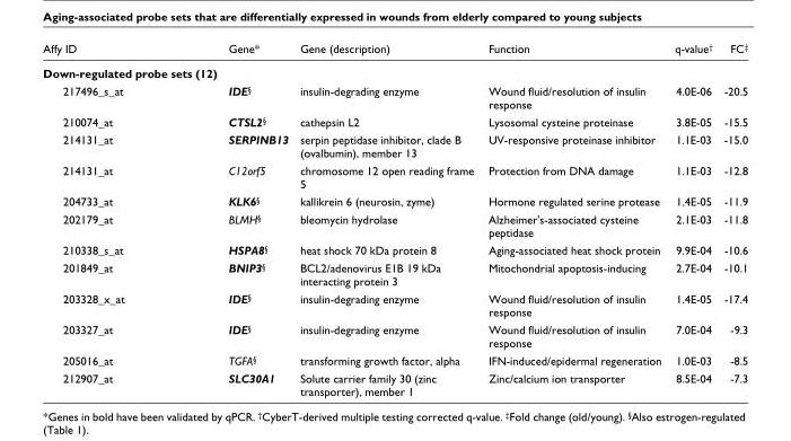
<table><thead><tr><td>Affy ID</td><td>Gene*</td><td>Gene (description)</td><td>Function</td><td>q-value<sup>†</sup></td><td>FC<sup>‡</sup></td></tr></thead><tbody><tr><td colspan="6">Down-regulated probe sets (12)</td></tr><tr><td>217496_s_at</td><td>IDE<sup>§</sup></td><td>insulin-degrading enzyme</td><td>Wound fluid/resolution of insulin response</td><td>4.0E-06</td><td>-20.5</td></tr><tr><td>210074_at</td><td>CTSL2<sup>§</sup></td><td>cathepsin L2</td><td>Lysosomal cysteine proteinase</td><td>3.8E-05</td><td>-15.5</td></tr><tr><td>214131_at</td><td>SERPINB13</td><td>serpin peptidase inhibitor, clade B (ovalbumin), member 13</td><td>UV-responsive proteinase inhibitor</td><td>1.1E-03</td><td>-15.0</td></tr><tr><td>214131_at</td><td>C12orf5</td><td>chromosome 12 open reading frame 5</td><td>Protection from DNA damage</td><td>1.1E-03</td><td>-12.8</td></tr><tr><td>204733_at</td><td>KLK6<sup>§</sup></td><td>kallikrein 6 (neurosin, zyme)</td><td>Hormone regulated serine protease</td><td>1.4E-05</td><td>-11.9</td></tr><tr><td>202179_at</td><td>BLMH<sup>§</sup></td><td>bleomycin hydrolase</td><td>Alzheimer&#x27;s-associated cysteine peptidase</td><td>2.1E-03</td><td>-11.8</td></tr><tr><td>210338_s_at</td><td>HSPA8<sup>§</sup></td><td>heat shock 70 kDa protein 8</td><td>Aging-associated heat shock protein</td><td>9.9E-04</td><td>-10.6</td></tr><tr><td>201849_at</td><td>BNIP3<sup>§</sup></td><td>BCL2/adenovirus E1B 19 kDa interacting protein 3</td><td>Mitochondrial apoptosis-inducing</td><td>2.7E-04</td><td>-10.1</td></tr><tr><td>203328_x_at</td><td>IDE<sup>§</sup></td><td>insulin-degrading enzyme</td><td>Wound fluid/resolution of insulin response</td><td>1.4E-05</td><td>-17.4</td></tr><tr><td>203327_at</td><td>IDE<sup>§</sup></td><td>insulin-degrading enzyme</td><td>Wound fluid/resolution of insulin response</td><td>7.0E-04</td><td>-9.3</td></tr><tr><td>205016_at</td><td>TGFA<sup>§</sup></td><td>transforming growth factor, alpha</td><td>IFN-induced/epidermal regeneration</td><td>1.0E-03</td><td>-8.5</td></tr><tr><td>212907_at</td><td>SLC30A1</td><td>Solute carrier family 30 (zinc transporter), member 1</td><td>Zinc/calcium ion transporter</td><td>8.5E-04</td><td>-7.3</td></tr></tbody></table>